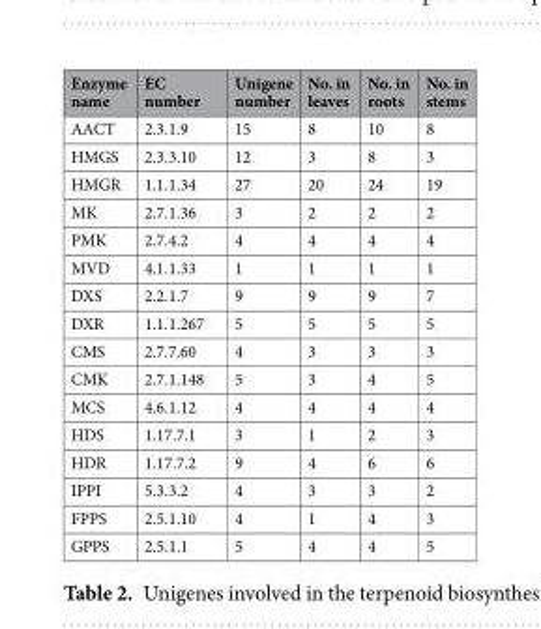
<table><thead><tr><td>Enzyme name</td><td>EC number</td><td>Unigene number</td><td>No. in leaves</td><td>No. in roots</td><td>No. in stems</td></tr></thead><tbody><tr><td>AACT</td><td>2.3.1.9</td><td>15</td><td>8</td><td>10</td><td>8</td></tr><tr><td>HMGS</td><td>2.3.3.10</td><td>12</td><td>3</td><td>8</td><td>3</td></tr><tr><td>HMGR</td><td>1.1.1.34</td><td>27</td><td>20</td><td>24</td><td>19</td></tr><tr><td>MK</td><td>2.7.1.36</td><td>3</td><td>2</td><td>2</td><td>2</td></tr><tr><td>PMK</td><td>2.7.4.2</td><td>4</td><td>4</td><td>4</td><td>4</td></tr><tr><td>MVD</td><td>4.1.1.33</td><td>1</td><td>1</td><td>1</td><td>1</td></tr><tr><td>DXS</td><td>2.2.1.7</td><td>9</td><td>9</td><td>9</td><td>7</td></tr><tr><td>DXR</td><td>1.1.1.267</td><td>5</td><td>5</td><td>5</td><td>5</td></tr><tr><td>CMS</td><td>2.7.7.60</td><td>4</td><td>3</td><td>3</td><td>3</td></tr><tr><td>CMK</td><td>2.7.1.148</td><td>5</td><td>3</td><td>4</td><td>5</td></tr><tr><td>MCS</td><td>4.6.1.12</td><td>4</td><td>4</td><td>4</td><td>4</td></tr><tr><td>HDS</td><td>1.17.7.1</td><td>3</td><td>1</td><td>2</td><td>3</td></tr><tr><td>HDR</td><td>1.17.7.2</td><td>9</td><td>4</td><td>6</td><td>6</td></tr><tr><td>IPPI</td><td>5.3.3.2</td><td>4</td><td>3</td><td>3</td><td>2</td></tr><tr><td>FPPS</td><td>2.5.1.10</td><td>4</td><td>1</td><td>4</td><td>3</td></tr><tr><td>GPPS</td><td>2.5.1.1</td><td>5</td><td>4</td><td>4</td><td>5</td></tr></tbody></table>